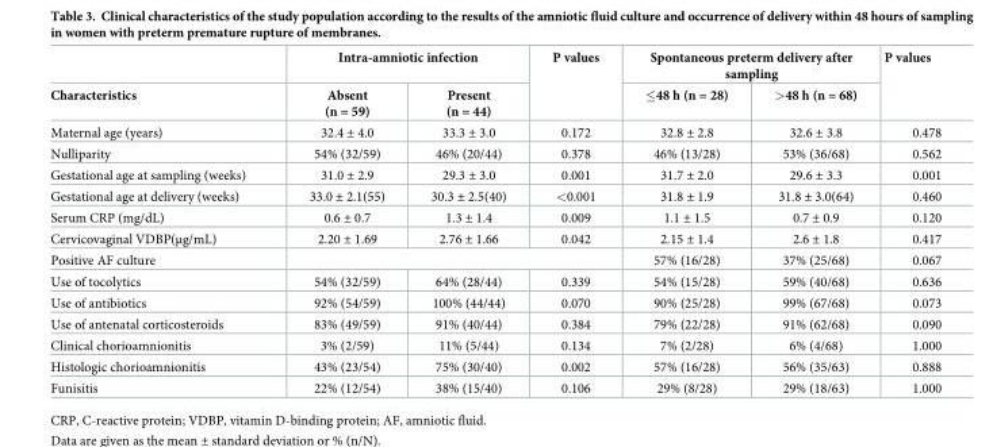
<table><thead><tr><td rowspan="2">Characteristics</td><td colspan="2">Intra-amniotic infection</td><td rowspan="2">P values</td><td colspan="2">Spontaneous preterm delivery after sampling</td><td rowspan="2">P values</td></tr><tr><td>Absent (n = 59)</td><td>Present (n = 44)</td><td>≤48 h (n = 28)</td><td>&gt;48 h (n = 68)</td></tr></thead><tbody><tr><td>Maternal age (years)</td><td>32.4 ± 4.0</td><td>33.3 ± 3.0</td><td>0.172</td><td>32.8 ± 2.8</td><td>32.6 ± 3.8</td><td>0.478</td></tr><tr><td>Nulliparity</td><td>54% (32/59)</td><td>46% (20/44)</td><td>0.378</td><td>46% (13/28)</td><td>53% (36/68)</td><td>0.562</td></tr><tr><td>Gestational age at sampling (weeks)</td><td>31.0 ± 2.9</td><td>29.3 ± 3.0</td><td>0.001</td><td>31.7 ± 2.0</td><td>29.6 ± 3.3</td><td>0.001</td></tr><tr><td>Gestational age at delivery (weeks)</td><td>33.0 ± 2.1(55)</td><td>30.3 ± 2.5(40)</td><td>&lt;0.001</td><td>31.8 ± 1.9</td><td>31.8 ± 3.0(64)</td><td>0.460</td></tr><tr><td>Serum CRP (mg/dL)</td><td>0.6 ± 0.7</td><td>1.3 ± 1.4</td><td>0.009</td><td>1.1 ± 1.5</td><td>0.7 ± 0.9</td><td>0.120</td></tr><tr><td>Cervicovaginal VDBP(μg/mL)</td><td>2.20 ± 1.69</td><td>2.76 ± 1.66</td><td>0.042</td><td>2.15 ± 1.4</td><td>2.6 ± 1.8</td><td>0.417</td></tr><tr><td>Positive AF culture</td><td colspan="3"></td><td>57% (16/28)</td><td>37% (25/68)</td><td>0.067</td></tr><tr><td>Use of tocolytics</td><td>54% (32/59)</td><td>64% (28/44)</td><td>0.339</td><td>54% (15/28)</td><td>59% (40/68)</td><td>0.636</td></tr><tr><td>Use of antibiotics</td><td>92% (54/59)</td><td>100% (44/44)</td><td>0.070</td><td>90% (25/28)</td><td>99% (67/68)</td><td>0.073</td></tr><tr><td>Use of antenatal corticosteroids</td><td>83% (49/59)</td><td>91% (40/44)</td><td>0.384</td><td>79% (22/28)</td><td>91% (62/68)</td><td>0.090</td></tr><tr><td>Clinical chorioamnionitis</td><td>3% (2/59)</td><td>11% (5/44)</td><td>0.134</td><td>7% (2/28)</td><td>6% (4/68)</td><td>1.000</td></tr><tr><td>Histologic chorioamnionitis</td><td>43% (23/54)</td><td>75% (30/40)</td><td>0.002</td><td>57% (16/28)</td><td>56% (35/63)</td><td>0.888</td></tr><tr><td>Funisitis</td><td>22% (12/54)</td><td>38% (15/40)</td><td>0.106</td><td>29% (8/28)</td><td>29% (18/63)</td><td>1.000</td></tr></tbody></table>